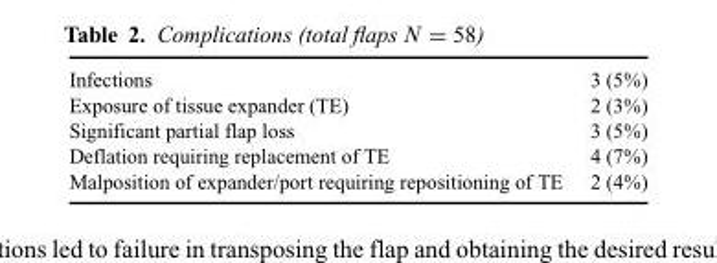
<table><tbody><tr><td>Infections</td><td>3 (5%)</td></tr><tr><td>Exposure of tissue expander (TE)</td><td>2 (3%)</td></tr><tr><td>Significant partial flap loss</td><td>3 (5%)</td></tr><tr><td>Deflation requiring replacement of TE</td><td>4 (7%)</td></tr><tr><td>Malposition of expander/port requiring repositioning of TE</td><td>2 (4%)</td></tr></tbody></table>